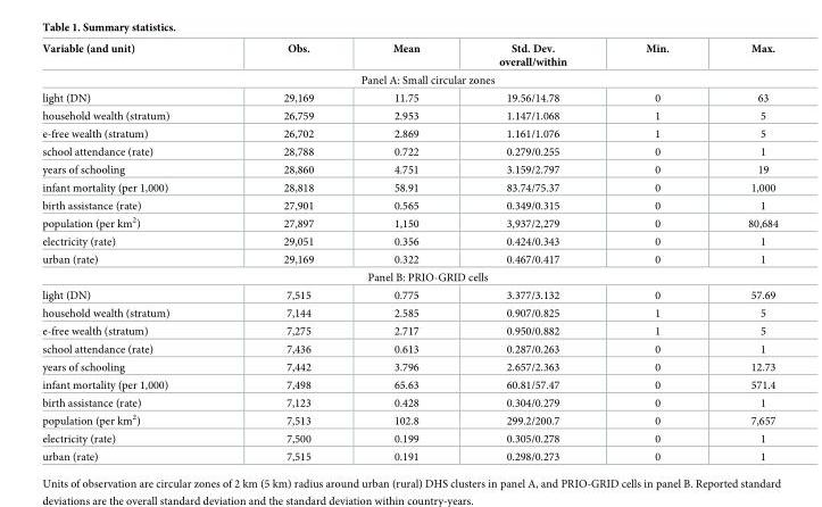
<table><thead><tr><td>Variable (and unit)</td><td>Obs.</td><td>Mean</td><td>Std. Dev. overall/within</td><td>Min.</td><td>Max.</td></tr></thead><tbody><tr><td colspan="6">Panel A: Small circular zones</td></tr><tr><td>light (DN)</td><td>29,169</td><td>11.75</td><td>19.56/14.78</td><td>0</td><td>63</td></tr><tr><td>household wealth (stratum)</td><td>26,759</td><td>2.953</td><td>1.147/1.068</td><td>1</td><td>5</td></tr><tr><td>e-free wealth (stratum)</td><td>26,702</td><td>2.869</td><td>1.161/1.076</td><td>1</td><td>5</td></tr><tr><td>school attendance (rate)</td><td>28,788</td><td>0.722</td><td>0.279/0.255</td><td>0</td><td>1</td></tr><tr><td>years of schooling</td><td>28,860</td><td>4.751</td><td>3.159/2.797</td><td>0</td><td>19</td></tr><tr><td>infant mortality (per 1,000)</td><td>28,818</td><td>58.91</td><td>83.74/75.37</td><td>0</td><td>1,000</td></tr><tr><td>birth assistance (rate)</td><td>27,901</td><td>0.565</td><td>0.349/0.315</td><td>0</td><td>1</td></tr><tr><td>population (per km<sup>2</sup>)</td><td>27,897</td><td>1,150</td><td>3,937/2,279</td><td>0</td><td>80,684</td></tr><tr><td>electricity (rate)</td><td>29,051</td><td>0.356</td><td>0.424/0.343</td><td>0</td><td>1</td></tr><tr><td>urban (rate)</td><td>29,169</td><td>0.322</td><td>0.467/0.417</td><td>0</td><td>1</td></tr><tr><td colspan="6">Panel B: PRIO-GRID cells</td></tr><tr><td>light (DN)</td><td>7,515</td><td>0.775</td><td>3.377/3.132</td><td>0</td><td>57.69</td></tr><tr><td>household wealth (stratum)</td><td>7,144</td><td>2.585</td><td>0.907/0.825</td><td>1</td><td>5</td></tr><tr><td>e-free wealth (stratum)</td><td>7,275</td><td>2.717</td><td>0.950/0.882</td><td>1</td><td>5</td></tr><tr><td>school attendance (rate)</td><td>7,436</td><td>0.613</td><td>0.287/0.263</td><td>0</td><td>1</td></tr><tr><td>years of schooling</td><td>7,442</td><td>3.796</td><td>2.657/2.363</td><td>0</td><td>12.73</td></tr><tr><td>infant mortality (per 1,000)</td><td>7,498</td><td>65.63</td><td>60.81/57.47</td><td>0</td><td>571.4</td></tr><tr><td>birth assistance (rate)</td><td>7,123</td><td>0.428</td><td>0.304/0.279</td><td>0</td><td>1</td></tr><tr><td>population (per km<sup>2</sup>)</td><td>7,513</td><td>102.8</td><td>299.2/200.7</td><td>0</td><td>7,657</td></tr><tr><td>electricity (rate)</td><td>7,500</td><td>0.199</td><td>0.305/0.278</td><td>0</td><td>1</td></tr><tr><td>urban (rate)</td><td>7,515</td><td>0.191</td><td>0.298/0.273</td><td>0</td><td>1</td></tr></tbody></table>